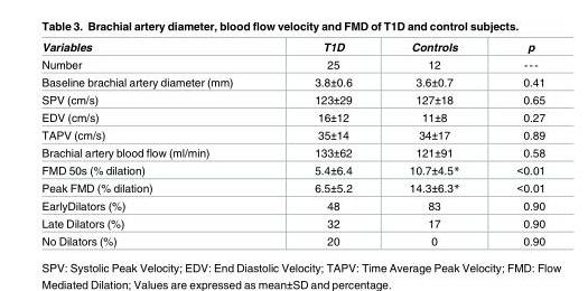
<table><thead><tr><td>Variables</td><td>T1D</td><td>Controls</td><td>p</td></tr></thead><tbody><tr><td>Number</td><td>25</td><td>12</td><td>---</td></tr><tr><td>Baseline brachial artery diameter (mm)</td><td>3.8±0.6</td><td>3.6±0.7</td><td>0.41</td></tr><tr><td>SPV (cm/s)</td><td>123±29</td><td>127±18</td><td>0.65</td></tr><tr><td>EDV (cm/s)</td><td>16±12</td><td>11±8</td><td>0.27</td></tr><tr><td>TAPV (cm/s)</td><td>35±14</td><td>34±17</td><td>0.89</td></tr><tr><td>Brachial artery blood flow (ml/min)</td><td>133±62</td><td>121±91</td><td>0.58</td></tr><tr><td>FMD 50s (% dilation)</td><td>5.4±6.4</td><td>10.7±4.5*</td><td>&lt;0.01</td></tr><tr><td>Peak FMD (% dilation)</td><td>6.5±5.2</td><td>14.3±6.3*</td><td>&lt;0.01</td></tr><tr><td>EarlyDilators (%)</td><td>48</td><td>83</td><td>0.90</td></tr><tr><td>Late Dilators (%)</td><td>32</td><td>17</td><td>0.90</td></tr><tr><td>No Dilators (%)</td><td>20</td><td>0</td><td>0.90</td></tr></tbody></table>